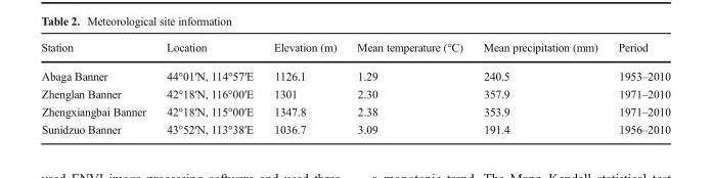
<table><thead><tr><td>Station</td><td>Location</td><td>Elevation (m)</td><td>Mean temperature (°C)</td><td>Mean precipitation (mm)</td><td>Period</td></tr></thead><tbody><tr><td>Abaga Banner</td><td>44°01′N, 114°57′E</td><td>1126.1</td><td>1.29</td><td>240.5</td><td>1953–2010</td></tr><tr><td>Zhenglan Banner</td><td>42°18′N, 116°00′E</td><td>1301</td><td>2.30</td><td>357.9</td><td>1971–2010</td></tr><tr><td>Zhengxiangbai Banner</td><td>42°18′N, 115°00′E</td><td>1347.8</td><td>2.38</td><td>353.9</td><td>1971–2010</td></tr><tr><td>Sunidzuo Banner</td><td>43°52′N, 113°38′E</td><td>1036.7</td><td>3.09</td><td>191.4</td><td>1956–2010</td></tr></tbody></table>